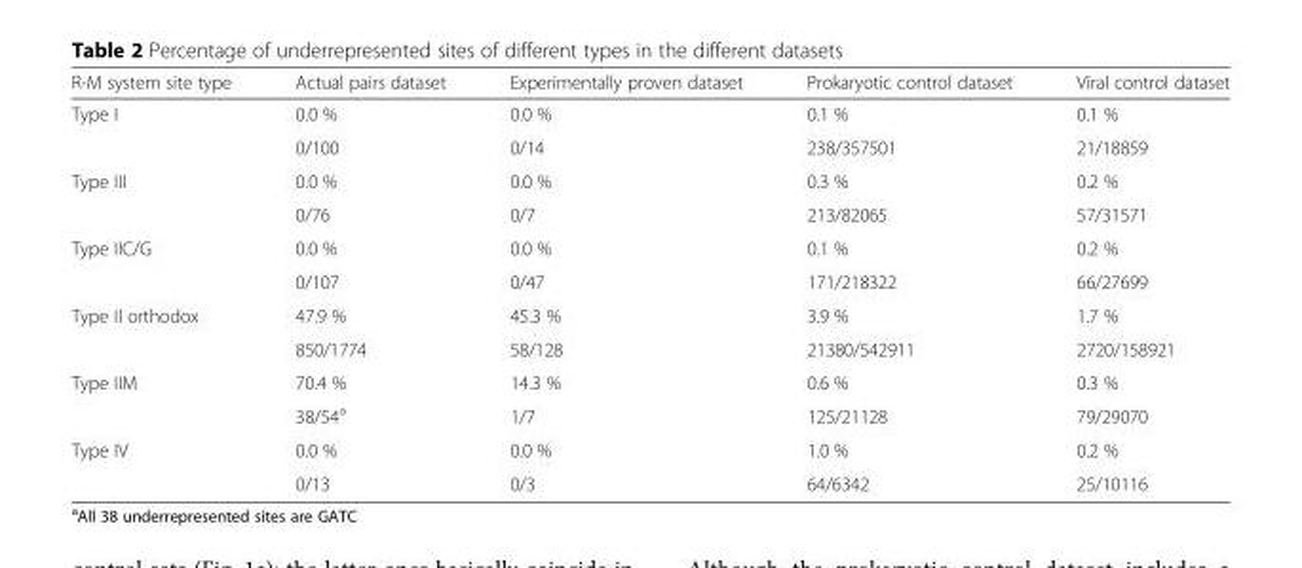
<table><thead><tr><td>R-M system site type</td><td>Actual pairs dataset</td><td>Experimentally proven dataset</td><td>Prokaryotic control dataset</td><td>Viral control dataset</td></tr></thead><tbody><tr><td rowspan="2">Type I</td><td>0.0 %</td><td>0.0 %</td><td>0.1 %</td><td>0.1 %</td></tr><tr><td>0/100</td><td>0/14</td><td>238/357501</td><td>21/18859</td></tr><tr><td rowspan="2">Type III</td><td>0.0 %</td><td>0.0 %</td><td>0.3 %</td><td>0.2 %</td></tr><tr><td>0/76</td><td>0/7</td><td>213/82065</td><td>57/31571</td></tr><tr><td rowspan="2">Type IIC/G</td><td>0.0 %</td><td>0.0 %</td><td>0.1 %</td><td>0.2 %</td></tr><tr><td>0/107</td><td>0/47</td><td>171/218322</td><td>66/27699</td></tr><tr><td rowspan="2">Type II orthodox</td><td>47.9 %</td><td>45.3 %</td><td>3.9 %</td><td>1.7 %</td></tr><tr><td>850/1774</td><td>58/128</td><td>21380/542911</td><td>2720/158921</td></tr><tr><td rowspan="2">Type IIM</td><td>70.4 %</td><td>14.3 %</td><td>0.6 %</td><td>0.3 %</td></tr><tr><td>38/54<sup>a</sup></td><td>1/7</td><td>125/21128</td><td>79/29070</td></tr><tr><td rowspan="2">Type IV</td><td>0.0 %</td><td>0.0 %</td><td>1.0 %</td><td>0.2 %</td></tr><tr><td>0/13</td><td>0/3</td><td>64/6342</td><td>25/10116</td></tr></tbody></table>